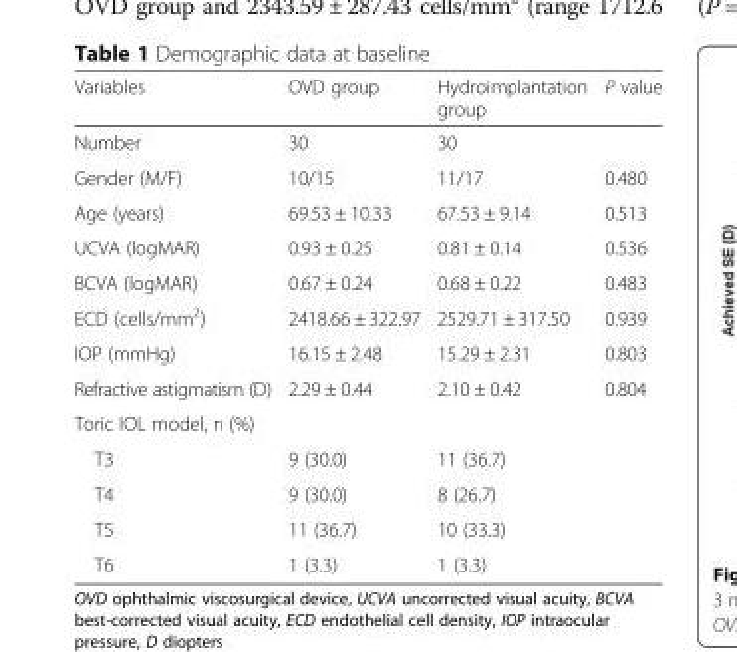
<table><thead><tr><td>Variables</td><td>OVD group</td><td>Hydroimplantation group</td><td>P value</td></tr></thead><tbody><tr><td>Number</td><td>30</td><td>30</td><td></td></tr><tr><td>Gender (M/F)</td><td>10/15</td><td>11/17</td><td>0.480</td></tr><tr><td>Age (years)</td><td>69.53 ± 10.33</td><td>67.53 ± 9.14</td><td>0.513</td></tr><tr><td>UCVA (logMAR)</td><td>0.93 ± 0.25</td><td>0.81 ± 0.14</td><td>0.536</td></tr><tr><td>BCVA (logMAR)</td><td>0.67 ± 0.24</td><td>0.68 ± 0.22</td><td>0.483</td></tr><tr><td>ECD (cells/mm<sup>2</sup>)</td><td>2418.66 ± 322.97</td><td>2529.71 ± 317.50</td><td>0.939</td></tr><tr><td>IOP (mmHg)</td><td>16.15 ± 2.48</td><td>15.29 ± 2.31</td><td>0.803</td></tr><tr><td>Refractive astigmatism (D)</td><td>2.29 ± 0.44</td><td>2.10 ± 0.42</td><td>0.804</td></tr><tr><td colspan="4">Toric IOL model, n (%)</td></tr><tr><td>T3</td><td>9 (30.0)</td><td>11 (36.7)</td><td></td></tr><tr><td>T4</td><td>9 (30.0)</td><td>8 (26.7)</td><td></td></tr><tr><td>T5</td><td>11 (36.7)</td><td>10 (33.3)</td><td></td></tr><tr><td>T6</td><td>1 (3.3)</td><td>1 (3.3)</td><td></td></tr></tbody></table>